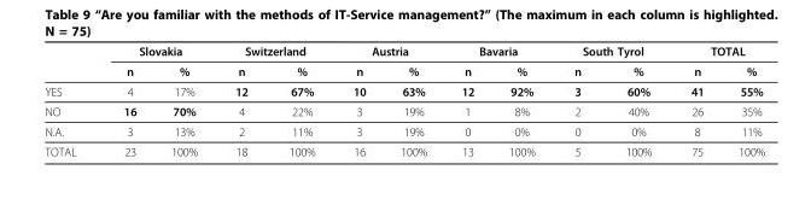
<table><thead><tr><td rowspan="2"></td><td colspan="2">Slovakia</td><td colspan="2">Switzerland</td><td colspan="2">Austria</td><td colspan="2">Bavaria</td><td colspan="2">South Tyrol</td><td colspan="2">TOTAL</td></tr><tr><td>n</td><td>%</td><td>n</td><td>%</td><td>n</td><td>%</td><td>n</td><td>%</td><td>n</td><td>%</td><td>n</td><td>%</td></tr></thead><tbody><tr><td>YES</td><td>4</td><td>17%</td><td>12</td><td>67%</td><td>10</td><td>63%</td><td>12</td><td>92%</td><td>3</td><td>60%</td><td>41</td><td>55%</td></tr><tr><td>NO</td><td>16</td><td>70%</td><td>4</td><td>22%</td><td>3</td><td>19%</td><td>1</td><td>8%</td><td>2</td><td>40%</td><td>26</td><td>35%</td></tr><tr><td>N.A.</td><td>3</td><td>13%</td><td>2</td><td>11%</td><td>3</td><td>19%</td><td>0</td><td>0%</td><td>0</td><td>0%</td><td>8</td><td>11%</td></tr><tr><td>TOTAL</td><td>23</td><td>100%</td><td>18</td><td>100%</td><td>16</td><td>100%</td><td>13</td><td>100%</td><td>5</td><td>100%</td><td>75</td><td>100%</td></tr></tbody></table>